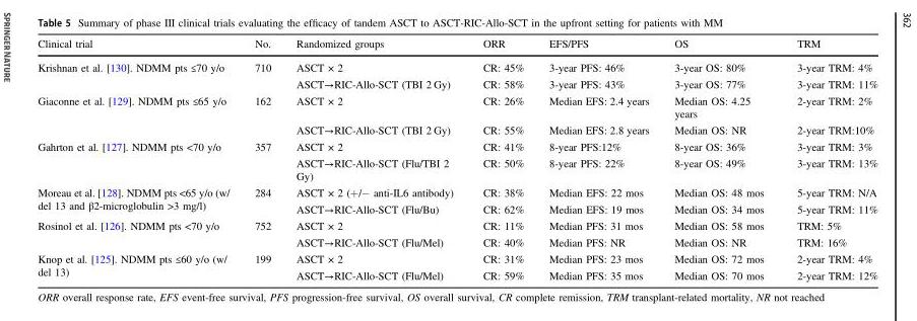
<table><thead><tr><td>Clinical trial</td><td>No.</td><td>Randomized groups</td><td>ORR</td><td>EFS/PFS</td><td>OS</td><td>TRM</td></tr></thead><tbody><tr><td rowspan="2">Krishnan et al. [130]. NDMM pts ≤70 y/o</td><td rowspan="2">710</td><td>ASCT × 2</td><td>CR: 45%</td><td>3-year PFS: 46%</td><td>3-year OS: 80%</td><td>3-year TRM: 4%</td></tr><tr><td>ASCT→RIC-Allo-SCT (TBI 2 Gy)</td><td>CR: 58%</td><td>3-year PFS: 43%</td><td>3-year OS: 77%</td><td>3-year TRM: 11%</td></tr><tr><td rowspan="2">Giaconne et al. [129]. NDMM pts ≤65 y/o</td><td rowspan="2">162</td><td>ASCT × 2</td><td>CR: 26%</td><td>Median EFS: 2.4 years</td><td>Median OS: 4.25 years</td><td>2-year TRM: 2%</td></tr><tr><td>ASCT→RIC-Allo-SCT (TBI 2 Gy)</td><td>CR: 55%</td><td>Median EFS: 2.8 years</td><td>Median OS: NR</td><td>2-year TRM:10%</td></tr><tr><td rowspan="2">Gahrton et al. [127]. NDMM pts &lt;70 y/o</td><td rowspan="2">357</td><td>ASCT × 2</td><td>CR: 41%</td><td>8-year PFS:12%</td><td>8-year OS: 36%</td><td>3-year TRM: 3%</td></tr><tr><td>ASCT→RIC-Allo-SCT (Flu/TBI 2 Gy)</td><td>CR: 50%</td><td>8-year PFS: 22%</td><td>8-year OS: 49%</td><td>3-year TRM: 13%</td></tr><tr><td rowspan="2">Moreau et al. [128]. NDMM pts &lt;65 y/o (w/ del 13 and β2-microglobulin &gt;3 mg/l)</td><td rowspan="2">284</td><td>ASCT × 2 (+/− anti-IL6 antibody)</td><td>CR: 38%</td><td>Median EFS: 22 mos</td><td>Median OS: 48 mos</td><td>5-year TRM: N/A</td></tr><tr><td>ASCT→RIC-Allo-SCT (Flu/Bu)</td><td>CR: 62%</td><td>Median EFS: 19 mos</td><td>Median OS: 34 mos</td><td>5-year TRM: 11%</td></tr><tr><td rowspan="2">Rosinol et al. [126]. NDMM pts &lt;70 y/o</td><td rowspan="2">752</td><td>ASCT × 2</td><td>CR: 11%</td><td>Median PFS: 31 mos</td><td>Median OS: 58 mos</td><td>TRM: 5%</td></tr><tr><td>ASCT→RIC-Allo-SCT (Flu/Mel)</td><td>CR: 40%</td><td>Median PFS: NR</td><td>Median OS: NR</td><td>TRM: 16%</td></tr><tr><td rowspan="2">Knop et al. [125]. NDMM pts ≤60 y/o (w/ del 13)</td><td rowspan="2">199</td><td>ASCT × 2</td><td>CR: 31%</td><td>Median PFS: 23 mos</td><td>Median OS: 72 mos</td><td>2-year TRM: 4%</td></tr><tr><td>ASCT→RIC-Allo-SCT (Flu/Mel)</td><td>CR: 59%</td><td>Median PFS: 35 mos</td><td>Median OS: 70 mos</td><td>2-year TRM: 12%</td></tr></tbody></table>